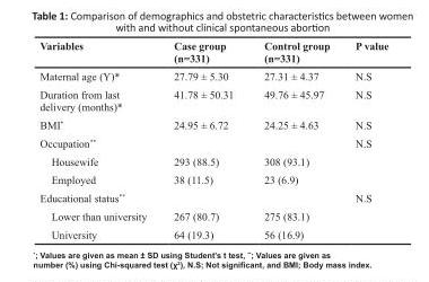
<table><thead><tr><td>Variables</td><td>Case group (n=331)</td><td>Control group (n=331)</td><td>P value</td></tr></thead><tbody><tr><td>Maternal age (Y)*</td><td>27.79 ± 5.30</td><td>27.31 ± 4.37</td><td>N.S</td></tr><tr><td>Duration from last delivery (months)*</td><td>41.78 ± 50.31</td><td>49.76 ± 45.97</td><td>N.S</td></tr><tr><td>BMI*</td><td>24.95 ± 6.72</td><td>24.25 ± 4.63</td><td>N.S</td></tr><tr><td>Occupation**</td><td></td><td></td><td>N.S</td></tr><tr><td>Housewife</td><td>293 (88.5)</td><td>308 (93.1)</td><td></td></tr><tr><td>Employed</td><td>38 (11.5)</td><td>23 (6.9)</td><td></td></tr><tr><td>Educational status**</td><td></td><td></td><td>N.S</td></tr><tr><td>Lower than university</td><td>267 (80.7)</td><td>275 (83.1)</td><td></td></tr><tr><td>University</td><td>64 (19.3)</td><td>56 (16.9)</td><td></td></tr></tbody></table>